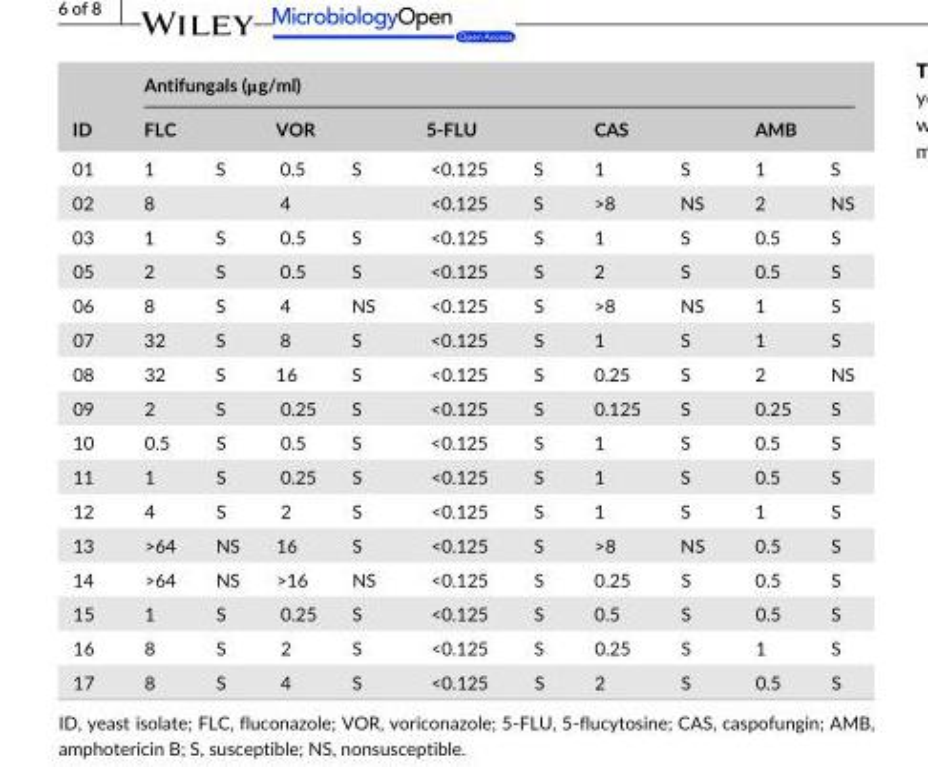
<table><thead><tr><td rowspan="3">ID 01</td><td colspan="10">Antifungals (μg/ml)</td></tr><tr><td colspan="2">FLC</td><td colspan="2">VOR</td><td colspan="2">5- FLU</td><td colspan="2">CAS</td><td colspan="2">AMB</td></tr><tr><td>1</td><td>S</td><td>0.5</td><td>S</td><td>&lt;0.125</td><td>S</td><td>1</td><td>S</td><td>1</td><td>S</td></tr></thead><tbody><tr><td>02</td><td>8</td><td></td><td>4</td><td></td><td>&lt;0.125</td><td>S</td><td>&gt;8</td><td>NS</td><td>2</td><td>NS</td></tr><tr><td>03</td><td>1</td><td>S</td><td>0.5</td><td>S</td><td>&lt;0.125</td><td>S</td><td>1</td><td>S</td><td>0.5</td><td>S</td></tr><tr><td>05</td><td>2</td><td>S</td><td>0.5</td><td>S</td><td>&lt;0.125</td><td>S</td><td>2</td><td>S</td><td>0.5</td><td>S</td></tr><tr><td>06</td><td>8</td><td>S</td><td>4</td><td>NS</td><td>&lt;0.125</td><td>S</td><td>&gt;8</td><td>NS</td><td>1</td><td>S</td></tr><tr><td>07</td><td>32</td><td>S</td><td>8</td><td>S</td><td>&lt;0.125</td><td>S</td><td>1</td><td>S</td><td>1</td><td>S</td></tr><tr><td>08</td><td>32</td><td>S</td><td>16</td><td>S</td><td>&lt;0.125</td><td>S</td><td>0.25</td><td>S</td><td>2</td><td>NS</td></tr><tr><td>09</td><td>2</td><td>S</td><td>0.25</td><td>S</td><td>&lt;0.125</td><td>S</td><td>0.125</td><td>S</td><td>0.25</td><td>S</td></tr><tr><td>10</td><td>0.5</td><td>S</td><td>0.5</td><td>S</td><td>&lt;0.125</td><td>S</td><td>1</td><td>S</td><td>0.5</td><td>S</td></tr><tr><td>11</td><td>1</td><td>S</td><td>0.25</td><td>S</td><td>&lt;0.125</td><td>S</td><td>1</td><td>S</td><td>0.5</td><td>S</td></tr><tr><td>12</td><td>4</td><td>S</td><td>2</td><td>S</td><td>&lt;0.125</td><td>S</td><td>1</td><td>S</td><td>1</td><td>S</td></tr><tr><td>13</td><td>&gt;64</td><td>NS</td><td>16</td><td>S</td><td>&lt;0.125</td><td>S</td><td>&gt;8</td><td>NS</td><td>0.5</td><td>S</td></tr><tr><td>14</td><td>&gt;64</td><td>NS</td><td>&gt;16</td><td>NS</td><td>&lt;0.125</td><td>S</td><td>0.25</td><td>S</td><td>0.5</td><td>S</td></tr><tr><td>15</td><td>1</td><td>S</td><td>0.25</td><td>S</td><td>&lt;0.125</td><td>S</td><td>0.5</td><td>S</td><td>0.5</td><td>S</td></tr><tr><td>16</td><td>8</td><td>S</td><td>2</td><td>S</td><td>&lt;0.125</td><td>S</td><td>0.25</td><td>S</td><td>1</td><td>S</td></tr><tr><td>17</td><td>8</td><td>S</td><td>4</td><td>S</td><td>&lt;0.125</td><td>S</td><td>2</td><td>S</td><td>0.5</td><td>S</td></tr></tbody></table>